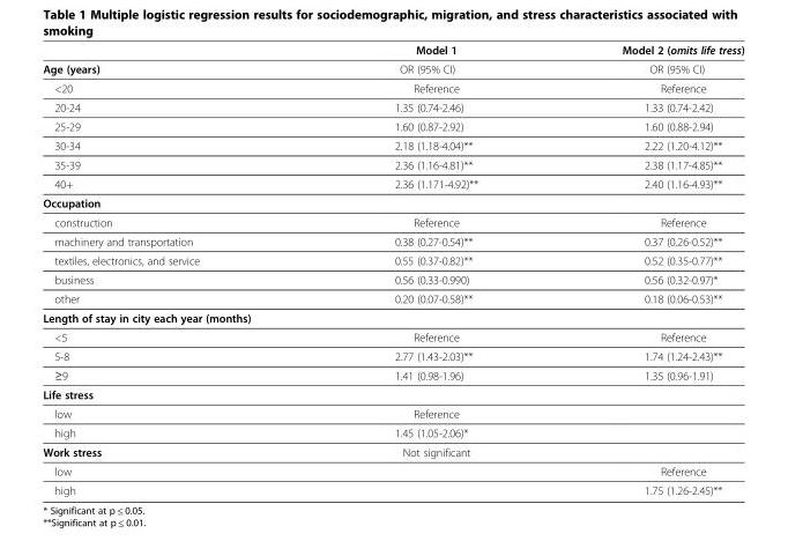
<table><thead><tr><td></td><td>Model 1</td><td>Model 2 (omits life tress)</td></tr></thead><tbody><tr><td>Age (years)</td><td>OR (95% CI)</td><td>OR (95% CI)</td></tr><tr><td>&lt;20</td><td>Reference</td><td>Reference</td></tr><tr><td>20-24</td><td>1.35 (0.74-2.46)</td><td>1.33 (0.74-2.42)</td></tr><tr><td>25-29</td><td>1.60 (0.87-2.92)</td><td>1.60 (0.88-2.94)</td></tr><tr><td>30-34</td><td>2.18 (1.18-4.04)**</td><td>2.22 (1.20-4.12)**</td></tr><tr><td>35-39</td><td>2.36 (1.16-4.81)**</td><td>2.38 (1.17-4.85)**</td></tr><tr><td>40+</td><td>2.36 (1.171-4.92)**</td><td>2.40 (1.16-4.93)**</td></tr><tr><td colspan="3">Occupation</td></tr><tr><td>construction</td><td>Reference</td><td>Reference</td></tr><tr><td>machinery and transportation</td><td>0.38 (0.27-0.54)**</td><td>0.37 (0.26-0.52)**</td></tr><tr><td>textiles, electronics, and service</td><td>0.55 (0.37-0.82)**</td><td>0.52 (0.35-0.77)**</td></tr><tr><td>business</td><td>0.56 (0.33-0.990)</td><td>0.56 (0.32-0.97)*</td></tr><tr><td>other</td><td>0.20 (0.07-0.58)**</td><td>0.18 (0.06-0.53)**</td></tr><tr><td colspan="3">Length of stay in city each year (months)</td></tr><tr><td>&lt;5</td><td>Reference</td><td>Reference</td></tr><tr><td>5-8</td><td>2.77 (1.43-2.03)**</td><td>1.74 (1.24-2.43)**</td></tr><tr><td>≥9</td><td>1.41 (0.98-1.96)</td><td>1.35 (0.96-1.91)</td></tr><tr><td colspan="3">Life stress</td></tr><tr><td>low</td><td>Reference</td><td></td></tr><tr><td>high</td><td>1.45 (1.05-2.06)*</td><td></td></tr><tr><td>Work stress</td><td>Not significant</td><td></td></tr><tr><td>low</td><td></td><td>Reference</td></tr><tr><td>high</td><td></td><td>1.75 (1.26-2.45)**</td></tr></tbody></table>